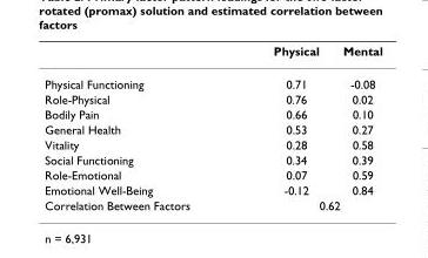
<table><thead><tr><td></td><td>Physical</td><td>Mental</td></tr></thead><tbody><tr><td>Physical Functioning</td><td>0.71</td><td>-0.08</td></tr><tr><td>Role-Physical</td><td>0.76</td><td>0.02</td></tr><tr><td>Bodily Pain</td><td>0.66</td><td>0.10</td></tr><tr><td>General Health</td><td>0.53</td><td>0.27</td></tr><tr><td>Vitality</td><td>0.28</td><td>0.58</td></tr><tr><td>Social Functioning</td><td>0.34</td><td>0.39</td></tr><tr><td>Role-Emotional</td><td>0.07</td><td>0.59</td></tr><tr><td>Emotional Well-Being</td><td>-0.12</td><td>0.84</td></tr><tr><td>Correlation Between Factors</td><td colspan="2">0.62</td></tr></tbody></table>